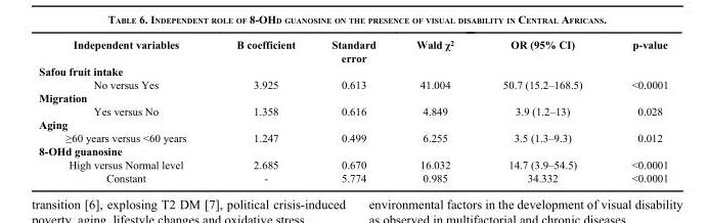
<table><thead><tr><td>Independent variables</td><td>B coefficient</td><td>Standard error</td><td>Wald χ<sup>2</sup></td><td>OR (95% CI)</td><td>p-value</td></tr></thead><tbody><tr><td colspan="6">Safou fruit intake</td></tr><tr><td>No versus Yes</td><td>3.925</td><td>0.613</td><td>41.004</td><td>50.7 (15.2–168.5)</td><td>&lt;0.0001</td></tr><tr><td colspan="6">Migration</td></tr><tr><td>Yes versus No</td><td>1.358</td><td>0.616</td><td>4.849</td><td>3.9 (1.2–13)</td><td>0.028</td></tr><tr><td colspan="6">Aging</td></tr><tr><td>≥60 years versus &lt;60 years</td><td>1.247</td><td>0.499</td><td>6.255</td><td>3.5 (1.3–9.3)</td><td>0.012</td></tr><tr><td colspan="6">8-OHd guanosine</td></tr><tr><td>High versus Normal level</td><td>2.685</td><td>0.670</td><td>16.032</td><td>14.7 (3.9–54.5)</td><td>&lt;0.0001</td></tr><tr><td>Constant</td><td>-</td><td>5.774</td><td>0.985</td><td>34.332</td><td>&lt;0.0001</td></tr></tbody></table>